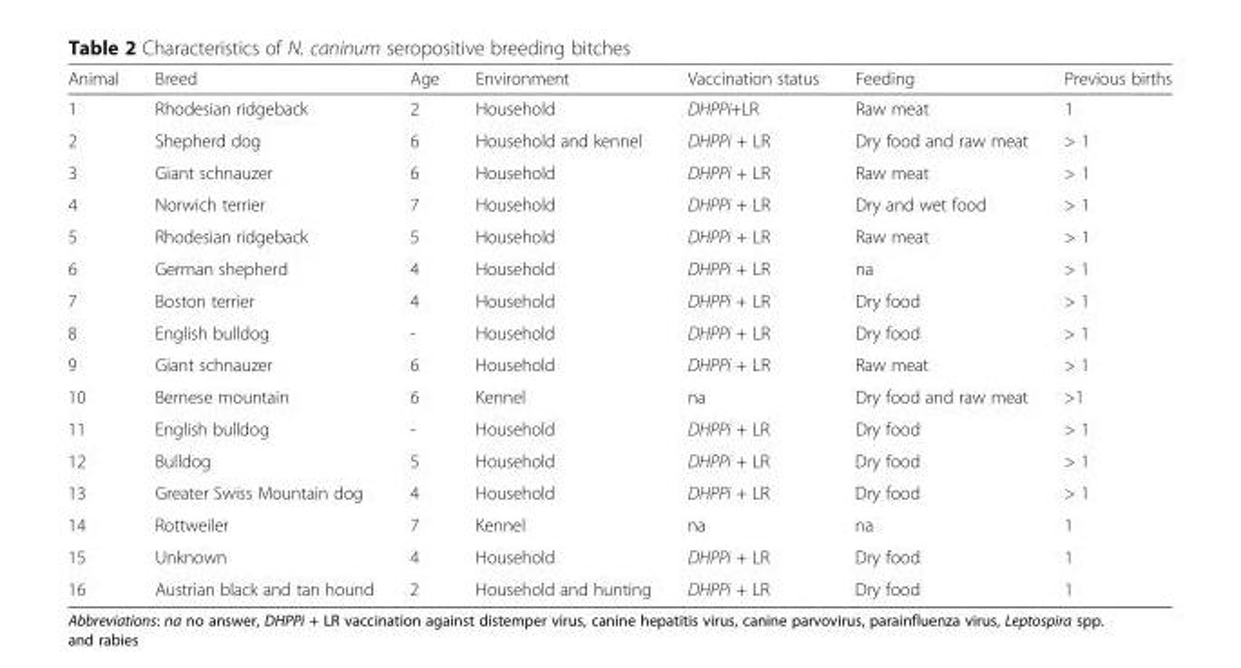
<table><thead><tr><td>Animal</td><td>Breed</td><td>Age</td><td>Environment</td><td>Vaccination status</td><td>Feeding</td><td>Previous births</td></tr></thead><tbody><tr><td>1</td><td>Rhodesian ridgeback</td><td>2</td><td>Household</td><td>DHPPi+LR</td><td>Raw meat</td><td>1</td></tr><tr><td>2</td><td>Shepherd dog</td><td>6</td><td>Household and kennel</td><td>DHPPi + LR</td><td>Dry food and raw meat</td><td>&gt; 1</td></tr><tr><td>3</td><td>Giant schnauzer</td><td>6</td><td>Household</td><td>DHPPi + LR</td><td>Raw meat</td><td>&gt; 1</td></tr><tr><td>4</td><td>Norwich terrier</td><td>7</td><td>Household</td><td>DHPPi + LR</td><td>Dry and wet food</td><td>&gt; 1</td></tr><tr><td>5</td><td>Rhodesian ridgeback</td><td>5</td><td>Household</td><td>DHPPi + LR</td><td>Raw meat</td><td>&gt; 1</td></tr><tr><td>6</td><td>German shepherd</td><td>4</td><td>Household</td><td>DHPPi + LR</td><td>na</td><td>&gt; 1</td></tr><tr><td>7</td><td>Boston terrier</td><td>4</td><td>Household</td><td>DHPPi + LR</td><td>Dry food</td><td>&gt; 1</td></tr><tr><td>8</td><td>English bulldog</td><td>-</td><td>Household</td><td>DHPPi + LR</td><td>Dry food</td><td>&gt; 1</td></tr><tr><td>9</td><td>Giant schnauzer</td><td>6</td><td>Household</td><td>DHPPi + LR</td><td>Raw meat</td><td>&gt; 1</td></tr><tr><td>10</td><td>Bernese mountain</td><td>6</td><td>Kennel</td><td>na</td><td>Dry food and raw meat</td><td>&gt;1</td></tr><tr><td>11</td><td>English bulldog</td><td>-</td><td>Household</td><td>DHPPi + LR</td><td>Dry food</td><td>&gt; 1</td></tr><tr><td>12</td><td>Bulldog</td><td>5</td><td>Household</td><td>DHPPi + LR</td><td>Dry food</td><td>&gt; 1</td></tr><tr><td>13</td><td>Greater Swiss Mountain dog</td><td>4</td><td>Household</td><td>DHPPi + LR</td><td>Dry food</td><td>&gt; 1</td></tr><tr><td>14</td><td>Rottweiler</td><td>7</td><td>Kennel</td><td>na</td><td>na</td><td>1</td></tr><tr><td>15</td><td>Unknown</td><td>4</td><td>Household</td><td>DHPPi + LR</td><td>Dry food</td><td>1</td></tr><tr><td>16</td><td>Austrian black and tan hound</td><td>2</td><td>Household and hunting</td><td>DHPPi + LR</td><td>Dry food</td><td>1</td></tr></tbody></table>